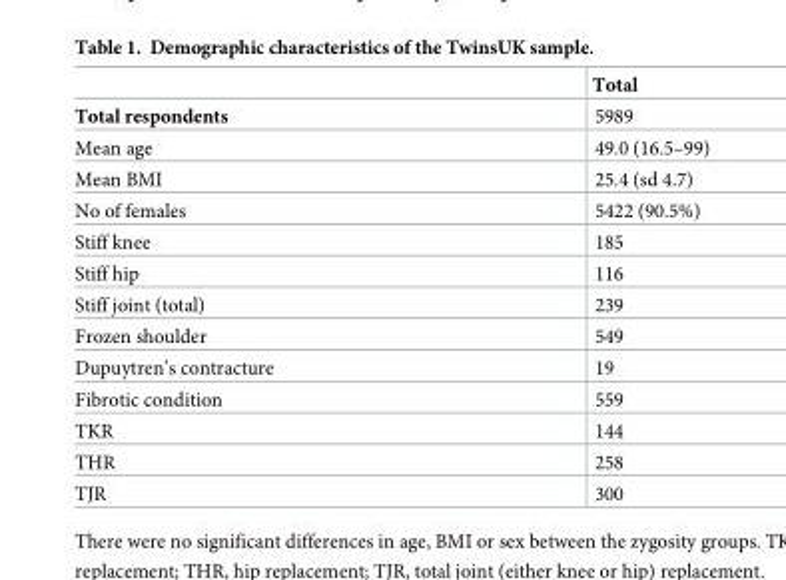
<table><thead><tr><td></td><td>Total</td></tr></thead><tbody><tr><td>Total respondents</td><td>5989</td></tr><tr><td>Mean age</td><td>49.0 (16.5–99)</td></tr><tr><td>Mean BMI</td><td>25.4 (sd 4.7)</td></tr><tr><td>No of females</td><td>5422 (90.5%)</td></tr><tr><td>Stiff knee</td><td>185</td></tr><tr><td>Stiff hip</td><td>116</td></tr><tr><td>Stiff joint (total)</td><td>239</td></tr><tr><td>Frozen shoulder</td><td>549</td></tr><tr><td>Dupuytren’s contracture</td><td>19</td></tr><tr><td>Fibrotic condition</td><td>559</td></tr><tr><td>TKR</td><td>144</td></tr><tr><td>THR</td><td>258</td></tr><tr><td>TJR</td><td>300</td></tr></tbody></table>